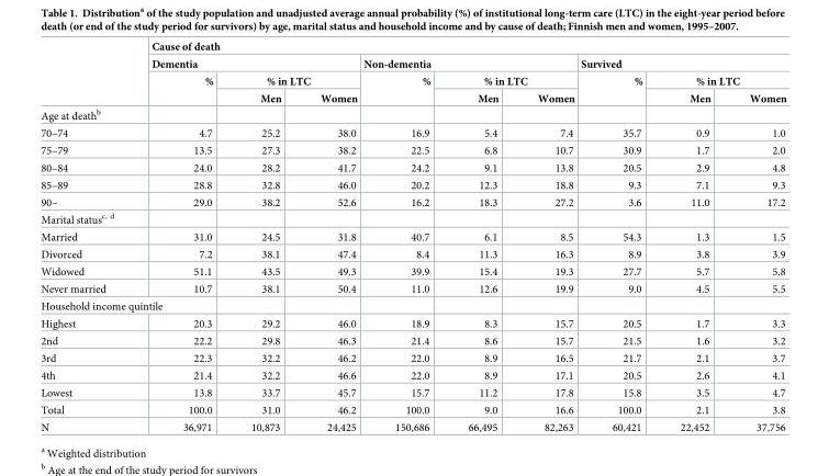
<table><thead><tr><td rowspan="4"></td><td colspan="9">Cause of death</td></tr><tr><td colspan="3">Dementia</td><td colspan="3">Non-dementia</td><td colspan="3">Survived</td></tr><tr><td rowspan="2">%</td><td colspan="2">% in LTC</td><td rowspan="2">%</td><td colspan="2">% in LTC</td><td rowspan="2">%</td><td colspan="2">% in LTC</td></tr><tr><td>Men</td><td>Women</td><td>Men</td><td>Women</td><td>Men</td><td>Women</td></tr></thead><tbody><tr><td colspan="10">Age at death<sup>b</sup></td></tr><tr><td>70–74</td><td>4.7</td><td>25.2</td><td>38.0</td><td>16.9</td><td>5.4</td><td>7.4</td><td>35.7</td><td>0.9</td><td>1.0</td></tr><tr><td>75–79</td><td>13.5</td><td>27.3</td><td>38.2</td><td>22.5</td><td>6.8</td><td>10.7</td><td>30.9</td><td>1.7</td><td>2.0</td></tr><tr><td>80–84</td><td>24.0</td><td>28.2</td><td>41.7</td><td>24.2</td><td>9.1</td><td>13.8</td><td>20.5</td><td>2.9</td><td>4.8</td></tr><tr><td>85–89</td><td>28.8</td><td>32.8</td><td>46.0</td><td>20.2</td><td>12.3</td><td>18.8</td><td>9.3</td><td>7.1</td><td>9.3</td></tr><tr><td>90–</td><td>29.0</td><td>38.2</td><td>52.6</td><td>16.2</td><td>18.3</td><td>27.2</td><td>3.6</td><td>11.0</td><td>17.2</td></tr><tr><td colspan="10">Marital status<sup>c, d</sup></td></tr><tr><td>Married</td><td>31.0</td><td>24.5</td><td>31.8</td><td>40.7</td><td>6.1</td><td>8.5</td><td>54.3</td><td>1.3</td><td>1.5</td></tr><tr><td>Divorced</td><td>7.2</td><td>38.1</td><td>47.4</td><td>8.4</td><td>11.3</td><td>16.3</td><td>8.9</td><td>3.8</td><td>3.9</td></tr><tr><td>Widowed</td><td>51.1</td><td>43.5</td><td>49.3</td><td>39.9</td><td>15.4</td><td>19.3</td><td>27.7</td><td>5.7</td><td>5.8</td></tr><tr><td>Never married</td><td>10.7</td><td>38.1</td><td>50.4</td><td>11.0</td><td>12.6</td><td>19.9</td><td>9.0</td><td>4.5</td><td>5.5</td></tr><tr><td colspan="10">Household income quintile</td></tr><tr><td>Highest</td><td>20.3</td><td>29.2</td><td>46.0</td><td>18.9</td><td>8.3</td><td>15.7</td><td>20.5</td><td>1.7</td><td>3.3</td></tr><tr><td>2nd</td><td>22.2</td><td>29.8</td><td>46.3</td><td>21.4</td><td>8.6</td><td>15.7</td><td>21.5</td><td>1.6</td><td>3.2</td></tr><tr><td>3rd</td><td>22.3</td><td>32.2</td><td>46.2</td><td>22.0</td><td>8.9</td><td>16.5</td><td>21.7</td><td>2.1</td><td>3.7</td></tr><tr><td>4th</td><td>21.4</td><td>32.2</td><td>46.6</td><td>22.0</td><td>8.9</td><td>17.1</td><td>20.5</td><td>2.6</td><td>4.1</td></tr><tr><td>Lowest</td><td>13.8</td><td>33.7</td><td>45.7</td><td>15.7</td><td>11.2</td><td>17.8</td><td>15.8</td><td>3.5</td><td>4.7</td></tr><tr><td>Total</td><td>100.0</td><td>31.0</td><td>46.2</td><td>100.0</td><td>9.0</td><td>16.6</td><td>100.0</td><td>2.1</td><td>3.8</td></tr><tr><td>N</td><td>36,971</td><td>10,873</td><td>24,425</td><td>150,686</td><td>66,495</td><td>82,263</td><td>60,421</td><td>22,452</td><td>37,756</td></tr></tbody></table>